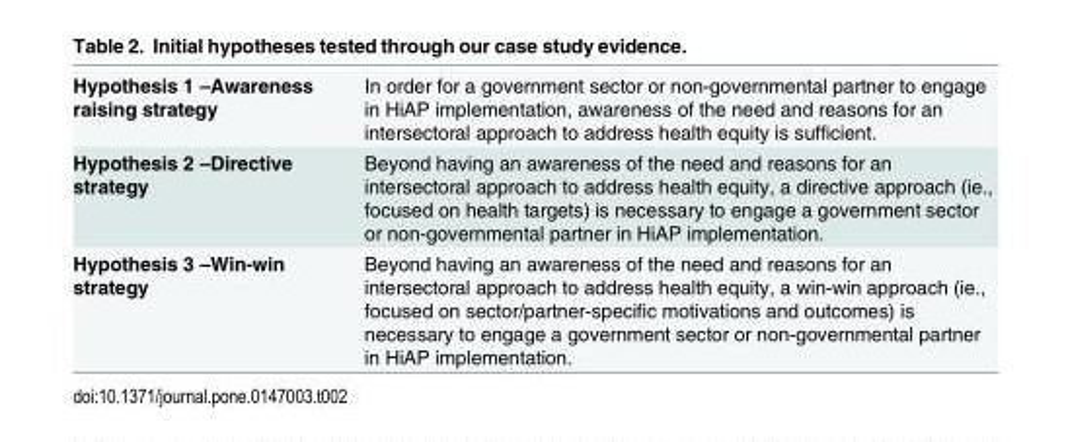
<table><tbody><tr><td>Hypothesis 1 –Awareness raising strategy</td><td>In order for a government sector or non-governmental partner to engage in HiAP implementation, awareness of the need and reasons for an intersectoral approach to address health equity is sufficient.</td></tr><tr><td>Hypothesis 2 –Directive strategy</td><td>Beyond having an awareness of the need and reasons for an intersectoral approach to address health equity, a directive approach (ie., focused on health targets) is necessary to engage a government sector or non-governmental partner in HiAP implementation.</td></tr><tr><td>Hypothesis 3 –Win-win strategy</td><td>Beyond having an awareness of the need and reasons for an intersectoral approach to address health equity, a win-win approach (ie., focused on sector/partner-specific motivations and outcomes) is necessary to engage a government sector or non-governmental partner in HiAP implementation.</td></tr></tbody></table>